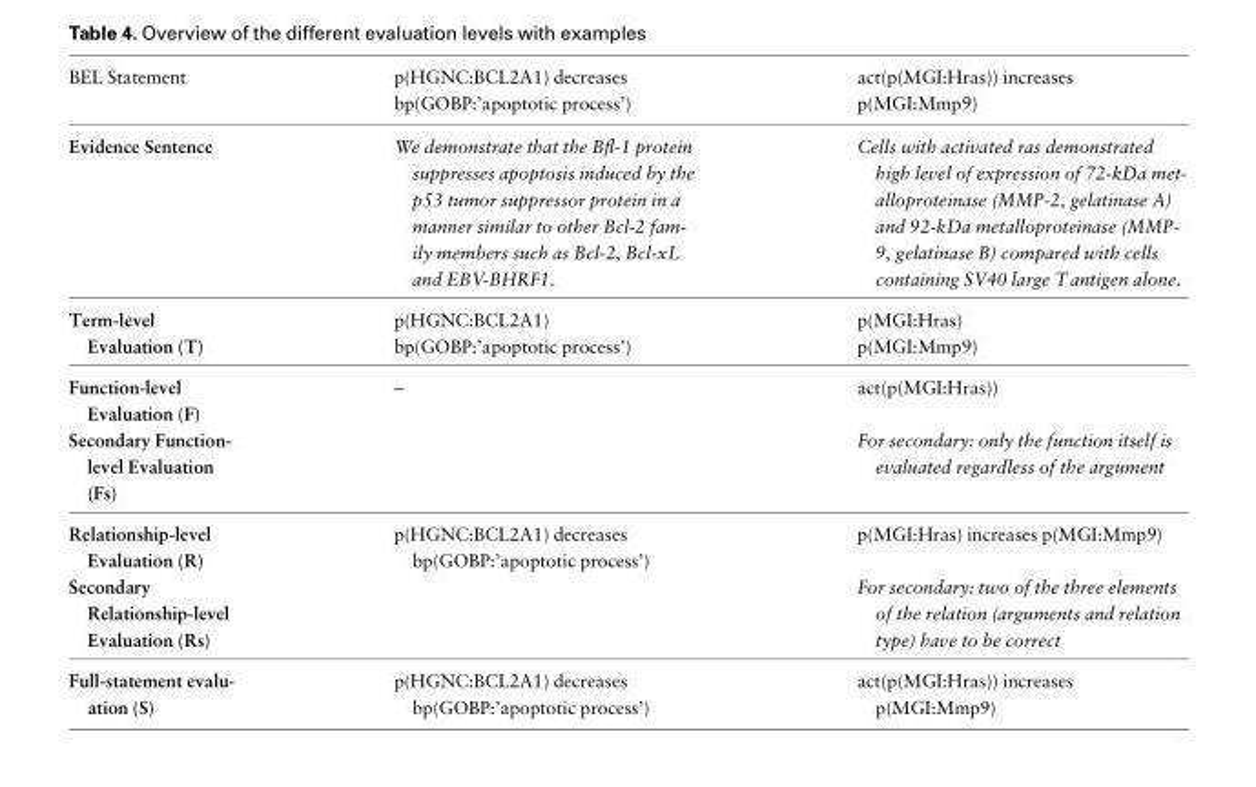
<table><thead><tr><td>BEL Statement</td><td>p(HGNC:BCL2A1) decreases bp(GOBP:’apoptotic process’)</td><td>act(p(MGI:Hras)) increases p(MGI:Mmp9)</td></tr></thead><tbody><tr><td>Evidence Sentence</td><td>We demonstrate that the Bfl-1 protein suppresses apoptosis induced by the p53 tumor suppressor protein in a manner similar to other Bcl-2 fam- ily members such as Bcl-2, Bcl-xL and EBV-BHRF1.</td><td>Cells with activated ras demonstrated high level of expression of 72-kDa met- alloproteinase (MMP-2, gelatinase A) and 92-kDa metalloproteinase (MMP- 9, gelatinase B) compared with cells containing SV40 large T antigen alone.</td></tr><tr><td rowspan="2">Term-level Evaluation (T)</td><td>p(HGNC:BCL2A1)</td><td>p(MGI:Hras)</td></tr><tr><td>bp(GOBP:’apoptotic process’)</td><td>p(MGI:Mmp9)</td></tr><tr><td>Function-level Evaluation (F)</td><td rowspan="2">–</td><td>act(p(MGI:Hras))</td></tr><tr><td>Secondary Function- level Evaluation (Fs)</td><td>For secondary: only the function itself is evaluated regardless of the argument</td></tr><tr><td>Relationship-level Evaluation (R)</td><td rowspan="2">p(HGNC:BCL2A1) decreases bp(GOBP:’apoptotic process’)</td><td>p(MGI:Hras) increases p(MGI:Mmp9)</td></tr><tr><td>Secondary Relationship-level Evaluation (Rs)</td><td>For secondary: two of the three elements of the relation (arguments and relation type) have to be correct</td></tr><tr><td>Full-statement evalu- ation (S)</td><td>p(HGNC:BCL2A1) decreases bp(GOBP:’apoptotic process’)</td><td>act(p(MGI:Hras)) increases p(MGI:Mmp9)</td></tr></tbody></table>